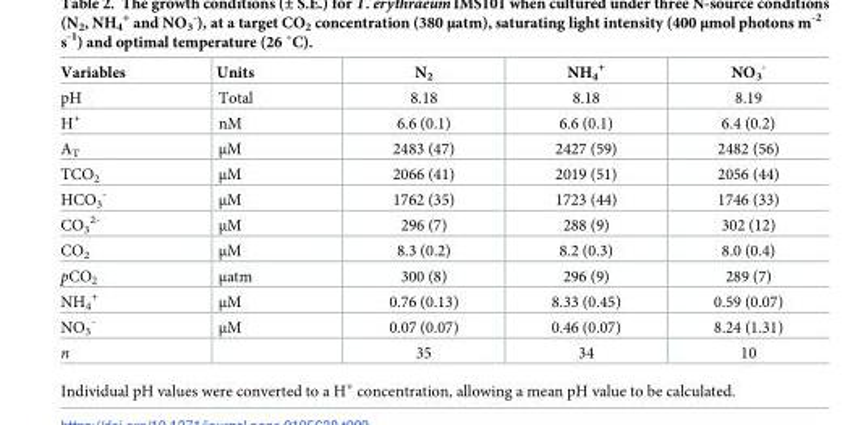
<table><thead><tr><td>Variables</td><td>Units</td><td>N<sub>2</sub></td><td>NH<sub>4</sub> <sup>+</sup></td><td>NO<sub>3</sub> <sup>-</sup></td></tr></thead><tbody><tr><td>pH</td><td>Total</td><td>8.18</td><td>8.18</td><td>8.19</td></tr><tr><td>H<sup>+</sup></td><td>nM</td><td>6.6 (0.1)</td><td>6.6 (0.1)</td><td>6.4 (0.2)</td></tr><tr><td>A<sub>T</sub></td><td>μM</td><td>2483 (47)</td><td>2427 (59)</td><td>2482 (56)</td></tr><tr><td>TCO<sub>2</sub></td><td>μM</td><td>2066 (41)</td><td>2019 (51)</td><td>2056 (44)</td></tr><tr><td>HCO<sub>3</sub> <sup>-</sup></td><td>μM</td><td>1762 (35)</td><td>1723 (44)</td><td>1746 (33)</td></tr><tr><td>CO<sub>3</sub> <sup>2-</sup></td><td>μM</td><td>296 (7)</td><td>288 (9)</td><td>302 (12)</td></tr><tr><td>CO<sub>2</sub></td><td>μM</td><td>8.3 (0.2)</td><td>8.2 (0.3)</td><td>8.0 (0.4)</td></tr><tr><td>pCO<sub>2</sub></td><td>μatm</td><td>300 (8)</td><td>296 (9)</td><td>289 (7)</td></tr><tr><td>NH<sub>4</sub> <sup>+</sup></td><td>μM</td><td>0.76 (0.13)</td><td>8.33 (0.45)</td><td>0.59 (0.07)</td></tr><tr><td>NO<sub>3</sub> <sup>-</sup></td><td>μM</td><td>0.07 (0.07)</td><td>0.46 (0.07)</td><td>8.24 (1.31)</td></tr><tr><td>n</td><td></td><td>35</td><td>34</td><td>10</td></tr></tbody></table>